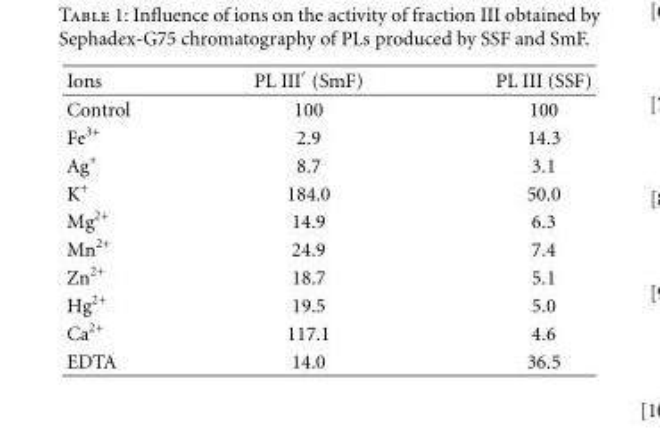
<table><thead><tr><td>Ions</td><td>PL III′ (SmF)</td><td>PL III (SSF)</td></tr></thead><tbody><tr><td>Control</td><td>100</td><td>100</td></tr><tr><td>Fe<sup>3+</sup></td><td>2.9</td><td>14.3</td></tr><tr><td>Ag<sup>+</sup></td><td>8.7</td><td>3.1</td></tr><tr><td>K<sup>+</sup></td><td>184.0</td><td>50.0</td></tr><tr><td>Mg<sup>2+</sup></td><td>14.9</td><td>6.3</td></tr><tr><td>Mn<sup>2+</sup></td><td>24.9</td><td>7.4</td></tr><tr><td>Zn<sup>2+</sup></td><td>18.7</td><td>5.1</td></tr><tr><td>Hg<sup>2+</sup></td><td>19.5</td><td>5.0</td></tr><tr><td>Ca<sup>2+</sup></td><td>117.1</td><td>4.6</td></tr><tr><td>EDTA</td><td>14.0</td><td>36.5</td></tr></tbody></table>